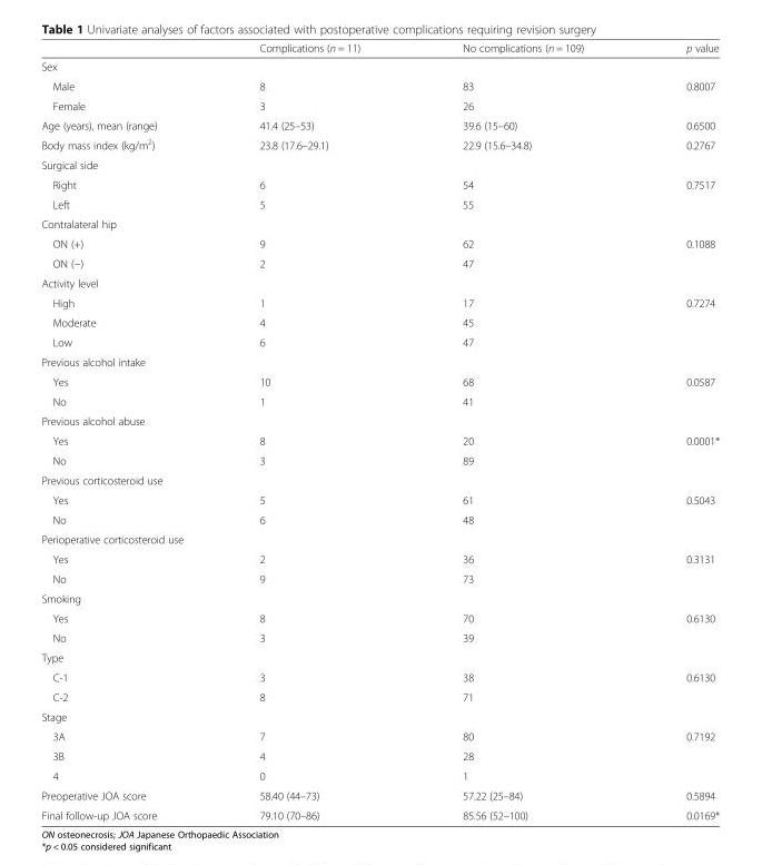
<table><thead><tr><td></td><td>Complications (n = 11)</td><td>No complications (n = 109)</td><td>p value</td></tr></thead><tbody><tr><td colspan="4">Sex</td></tr><tr><td>Male</td><td>8</td><td>83</td><td>0.8007</td></tr><tr><td>Female</td><td>3</td><td>26</td><td></td></tr><tr><td>Age (years), mean (range)</td><td>41.4 (25–53)</td><td>39.6 (15–60)</td><td>0.6500</td></tr><tr><td>Body mass index (kg/m<sup>2</sup>)</td><td>23.8 (17.6–29.1)</td><td>22.9 (15.6–34.8)</td><td>0.2767</td></tr><tr><td colspan="4">Surgical side</td></tr><tr><td>Right</td><td>6</td><td>54</td><td>0.7517</td></tr><tr><td>Left</td><td>5</td><td>55</td><td></td></tr><tr><td colspan="4">Contralateral hip</td></tr><tr><td>ON (+)</td><td>9</td><td>62</td><td>0.1088</td></tr><tr><td>ON (−)</td><td>2</td><td>47</td><td></td></tr><tr><td colspan="4">Activity level</td></tr><tr><td>High</td><td>1</td><td>17</td><td>0.7274</td></tr><tr><td>Moderate</td><td>4</td><td>45</td><td></td></tr><tr><td>Low</td><td>6</td><td>47</td><td></td></tr><tr><td colspan="4">Previous alcohol intake</td></tr><tr><td>Yes</td><td>10</td><td>68</td><td>0.0587</td></tr><tr><td>No</td><td>1</td><td>41</td><td></td></tr><tr><td colspan="4">Previous alcohol abuse</td></tr><tr><td>Yes</td><td>8</td><td>20</td><td>0.0001*</td></tr><tr><td>No</td><td>3</td><td>89</td><td></td></tr><tr><td colspan="4">Previous corticosteroid use</td></tr><tr><td>Yes</td><td>5</td><td>61</td><td>0.5043</td></tr><tr><td>No</td><td>6</td><td>48</td><td></td></tr><tr><td colspan="4">Perioperative corticosteroid use</td></tr><tr><td>Yes</td><td>2</td><td>36</td><td>0.3131</td></tr><tr><td>No</td><td>9</td><td>73</td><td></td></tr><tr><td colspan="4">Smoking</td></tr><tr><td>Yes</td><td>8</td><td>70</td><td>0.6130</td></tr><tr><td>No</td><td>3</td><td>39</td><td></td></tr><tr><td colspan="4">Type</td></tr><tr><td>C-1</td><td>3</td><td>38</td><td>0.6130</td></tr><tr><td>C-2</td><td>8</td><td>71</td><td></td></tr><tr><td colspan="4">Stage</td></tr><tr><td>3A</td><td>7</td><td>80</td><td>0.7192</td></tr><tr><td>3B</td><td>4</td><td>28</td><td></td></tr><tr><td>4</td><td>0</td><td>1</td><td></td></tr><tr><td>Preoperative JOA score</td><td>58.40 (44–73)</td><td>57.22 (25–84)</td><td>0.5894</td></tr><tr><td>Final follow-up JOA score</td><td>79.10 (70–86)</td><td>85.56 (52–100)</td><td>0.0169*</td></tr></tbody></table>